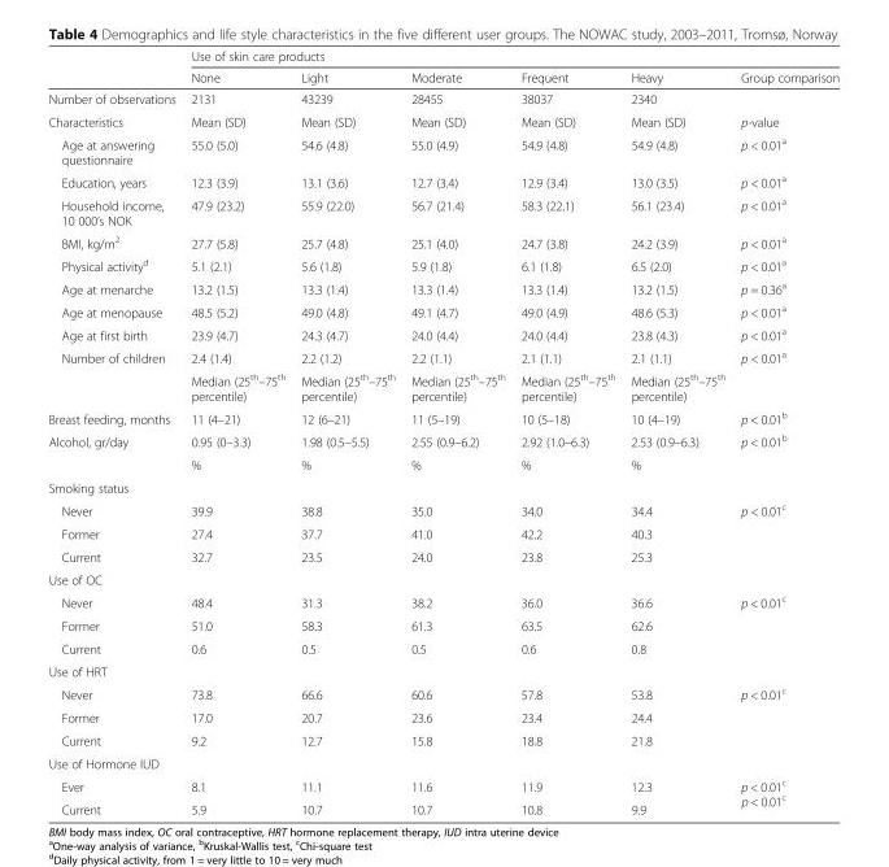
<table><thead><tr><td rowspan="2"></td><td colspan="6">Use of skin care products</td></tr><tr><td>None</td><td>Light</td><td>Moderate</td><td>Frequent</td><td>Heavy</td><td>Group comparison</td></tr></thead><tbody><tr><td>Number of observations</td><td>2131</td><td>43239</td><td>28455</td><td>38037</td><td>2340</td><td></td></tr><tr><td>Characteristics</td><td>Mean (SD)</td><td>Mean (SD)</td><td>Mean (SD)</td><td>Mean (SD)</td><td>Mean (SD)</td><td>p-value</td></tr><tr><td>Age at answering questionnaire</td><td>55.0 (5.0)</td><td>54.6 (4.8)</td><td>55.0 (4.9)</td><td>54.9 (4.8)</td><td>54.9 (4.8)</td><td>p &lt; 0.01<sup>a</sup></td></tr><tr><td>Education, years</td><td>12.3 (3.9)</td><td>13.1 (3.6)</td><td>12.7 (3.4)</td><td>12.9 (3.4)</td><td>13.0 (3.5)</td><td>p &lt; 0.01<sup>a</sup></td></tr><tr><td>Household income, 10 000’s NOK</td><td>47.9 (23.2)</td><td>55.9 (22.0)</td><td>56.7 (21.4)</td><td>58.3 (22.1)</td><td>56.1 (23.4)</td><td>p &lt; 0.01<sup>a</sup></td></tr><tr><td>BMI, kg/m<sup>2</sup></td><td>27.7 (5.8)</td><td>25.7 (4.8)</td><td>25.1 (4.0)</td><td>24.7 (3.8)</td><td>24.2 (3.9)</td><td>p &lt; 0.01<sup>a</sup></td></tr><tr><td>Physical activity<sup>d</sup></td><td>5.1 (2.1)</td><td>5.6 (1.8)</td><td>5.9 (1.8)</td><td>6.1 (1.8)</td><td>6.5 (2.0)</td><td>p &lt; 0.01<sup>a</sup></td></tr><tr><td>Age at menarche</td><td>13.2 (1.5)</td><td>13.3 (1.4)</td><td>13.3 (1.4)</td><td>13.3 (1.4)</td><td>13.2 (1.5)</td><td>p = 0.36<sup>a</sup></td></tr><tr><td>Age at menopause</td><td>48.5 (5.2)</td><td>49.0 (4.8)</td><td>49.1 (4.7)</td><td>49.0 (4.9)</td><td>48.6 (5.3)</td><td>p &lt; 0.01<sup>a</sup></td></tr><tr><td>Age at first birth</td><td>23.9 (4.7)</td><td>24.3 (4.7)</td><td>24.0 (4.4)</td><td>24.0 (4.4)</td><td>23.8 (4.3)</td><td>p &lt; 0.01<sup>a</sup></td></tr><tr><td rowspan="2">Number of children</td><td>2.4 (1.4)</td><td>2.2 (1.2)</td><td>2.2 (1.1)</td><td>2.1 (1.1)</td><td>2.1 (1.1)</td><td>p &lt; 0.01<sup>a</sup></td></tr><tr><td>Median (25<sup>th</sup>–75<sup>th</sup> percentile)</td><td>Median (25<sup>th</sup>–75<sup>th</sup> percentile)</td><td>Median (25<sup>th</sup>–75<sup>th</sup> percentile)</td><td>Median (25<sup>th</sup>–75<sup>th</sup> percentile)</td><td>Median (25<sup>th</sup>–75<sup>th</sup> percentile)</td><td></td></tr><tr><td>Breast feeding, months</td><td>11 (4–21)</td><td>12 (6–21)</td><td>11 (5–19)</td><td>10 (5–18)</td><td>10 (4–19)</td><td>p &lt; 0.01<sup>b</sup></td></tr><tr><td rowspan="2">Alcohol, gr/day</td><td>0.95 (0–3.3)</td><td>1.98 (0.5–5.5)</td><td>2.55 (0.9–6.2)</td><td>2.92 (1.0–6.3)</td><td>2.53 (0.9–6.3)</td><td>p &lt; 0.01<sup>b</sup></td></tr><tr><td>%</td><td>%</td><td>%</td><td>%</td><td>%</td><td></td></tr><tr><td colspan="7">Smoking status</td></tr><tr><td>Never</td><td>39.9</td><td>38.8</td><td>35.0</td><td>34.0</td><td>34.4</td><td rowspan="3">p &lt; 0.01<sup>c</sup></td></tr><tr><td>Former</td><td>27.4</td><td>37.7</td><td>41.0</td><td>42.2</td><td>40.3</td></tr><tr><td>Current</td><td>32.7</td><td>23.5</td><td>24.0</td><td>23.8</td><td>25.3</td></tr><tr><td colspan="7">Use of OC</td></tr><tr><td>Never</td><td>48.4</td><td>31.3</td><td>38.2</td><td>36.0</td><td>36.6</td><td rowspan="3">p &lt; 0.01<sup>c</sup></td></tr><tr><td>Former</td><td>51.0</td><td>58.3</td><td>61.3</td><td>63.5</td><td>62.6</td></tr><tr><td>Current</td><td>0.6</td><td>0.5</td><td>0.5</td><td>0.6</td><td>0.8</td></tr><tr><td colspan="7">Use of HRT</td></tr><tr><td>Never</td><td>73.8</td><td>66.6</td><td>60.6</td><td>57.8</td><td>53.8</td><td rowspan="3">p &lt; 0.01<sup>c</sup></td></tr><tr><td>Former</td><td>17.0</td><td>20.7</td><td>23.6</td><td>23.4</td><td>24.4</td></tr><tr><td>Current</td><td>9.2</td><td>12.7</td><td>15.8</td><td>18.8</td><td>21.8</td></tr><tr><td colspan="7">Use of Hormone IUD</td></tr><tr><td>Ever</td><td>8.1</td><td>11.1</td><td>11.6</td><td>11.9</td><td>12.3</td><td rowspan="2">p &lt; 0.01<sup>c</sup> p &lt; 0.01<sup>c</sup></td></tr><tr><td>Current</td><td>5.9</td><td>10.7</td><td>10.7</td><td>10.8</td><td>9.9</td></tr></tbody></table>